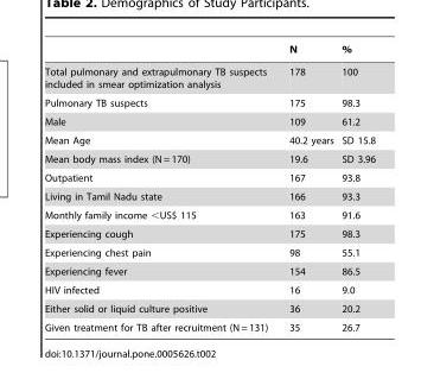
<table><thead><tr><td></td><td>N</td><td>%</td></tr></thead><tbody><tr><td>Total pulmonary and extrapulmonary TB suspects included in smear optimization analysis</td><td>178</td><td>100</td></tr><tr><td>Pulmonary TB suspects</td><td>175</td><td>98.3</td></tr><tr><td>Male</td><td>109</td><td>61.2</td></tr><tr><td>Mean Age</td><td>40.2 years</td><td>SD 15.8</td></tr><tr><td>Mean body mass index (N = 170)</td><td>19.6</td><td>SD 3.96</td></tr><tr><td>Outpatient</td><td>167</td><td>93.8</td></tr><tr><td>Living in Tamil Nadu state</td><td>166</td><td>93.3</td></tr><tr><td>Monthly family income &lt;US$ 115</td><td>163</td><td>91.6</td></tr><tr><td>Experiencing cough</td><td>175</td><td>98.3</td></tr><tr><td>Experiencing chest pain</td><td>98</td><td>55.1</td></tr><tr><td>Experiencing fever</td><td>154</td><td>86.5</td></tr><tr><td>HIV infected</td><td>16</td><td>9.0</td></tr><tr><td>Either solid or liquid culture positive</td><td>36</td><td>20.2</td></tr><tr><td>Given treatment for TB after recruitment (N = 131)</td><td>35</td><td>26.7</td></tr></tbody></table>